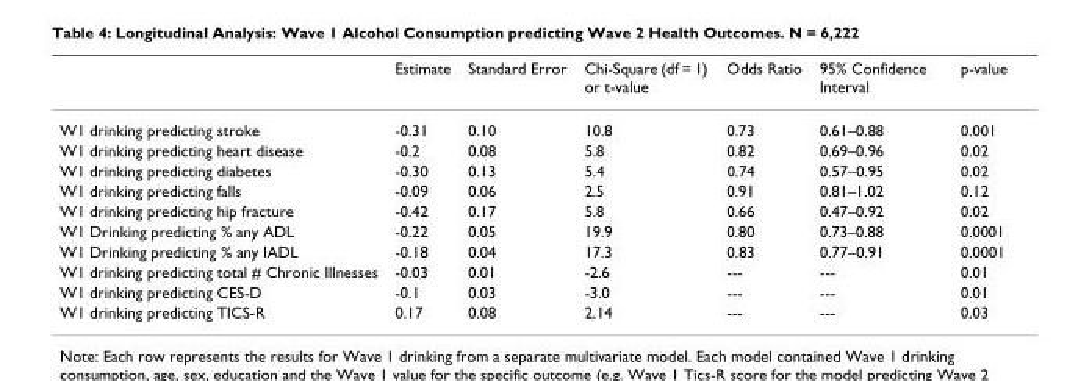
<table><thead><tr><td></td><td>Estimate</td><td>Standard Error</td><td>Chi-Square (df = 1) or t-value</td><td>Odds Ratio</td><td>95% Confidence Interval</td><td>p-value</td></tr></thead><tbody><tr><td>W1 drinking predicting stroke</td><td>-0.31</td><td>0.10</td><td>10.8</td><td>0.73</td><td>0.61–0.88</td><td>0.001</td></tr><tr><td>W1 drinking predicting heart disease</td><td>-0.2</td><td>0.08</td><td>5.8</td><td>0.82</td><td>0.69–0.96</td><td>0.02</td></tr><tr><td>W1 drinking predicting diabetes</td><td>-0.30</td><td>0.13</td><td>5.4</td><td>0.74</td><td>0.57–0.95</td><td>0.02</td></tr><tr><td>W1 drinking predicting falls</td><td>-0.09</td><td>0.06</td><td>2.5</td><td>0.91</td><td>0.81–1.02</td><td>0.12</td></tr><tr><td>W1 drinking predicting hip fracture</td><td>-0.42</td><td>0.17</td><td>5.8</td><td>0.66</td><td>0.47–0.92</td><td>0.02</td></tr><tr><td>W1 Drinking predicting % any ADL</td><td>-0.22</td><td>0.05</td><td>19.9</td><td>0.80</td><td>0.73–0.88</td><td>0.0001</td></tr><tr><td>W1 Drinking predicting % any IADL</td><td>-0.18</td><td>0.04</td><td>17.3</td><td>0.83</td><td>0.77–0.91</td><td>0.0001</td></tr><tr><td>W1 drinking predicting total # Chronic Illnesses</td><td>-0.03</td><td>0.01</td><td>-2.6</td><td>---</td><td>---</td><td>0.01</td></tr><tr><td>W1 drinking predicting CES-D</td><td>-0.1</td><td>0.03</td><td>-3.0</td><td>---</td><td>---</td><td>0.01</td></tr><tr><td>W1 drinking predicting TICS-R</td><td>0.17</td><td>0.08</td><td>2.14</td><td>---</td><td>---</td><td>0.03</td></tr></tbody></table>